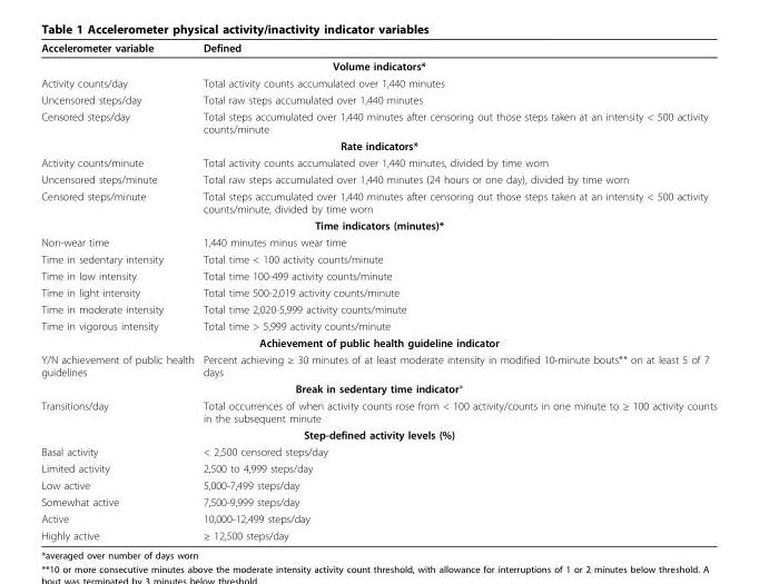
<table><thead><tr><td>Accelerometer variable</td><td>Defined</td></tr></thead><tbody><tr><td colspan="2">Volume indicators*</td></tr><tr><td>Activity counts/day</td><td>Total activity counts accumulated over 1,440 minutes</td></tr><tr><td>Uncensored steps/day</td><td>Total raw steps accumulated over 1,440 minutes</td></tr><tr><td>Censored steps/day</td><td>Total steps accumulated over 1,440 minutes after censoring out those steps taken at an intensity &lt; 500 activity counts/minute</td></tr><tr><td colspan="2">Rate indicators*</td></tr><tr><td>Activity counts/minute</td><td>Total activity counts accumulated over 1,440 minutes, divided by time worn</td></tr><tr><td>Uncensored steps/minute</td><td>Total raw steps accumulated over 1,440 minutes (24 hours or one day), divided by time worn</td></tr><tr><td>Censored steps/minute</td><td>Total steps accumulated over 1,440 minutes after censoring out those steps taken at an intensity &lt; 500 activity counts/minute, divided by time worn</td></tr><tr><td colspan="2">Time indicators (minutes)*</td></tr><tr><td>Non-wear time</td><td>1,440 minutes minus wear time</td></tr><tr><td>Time in sedentary intensity</td><td>Total time &lt; 100 activity counts/minute</td></tr><tr><td>Time in low intensity</td><td>Total time 100-499 activity counts/minute</td></tr><tr><td>Time in light intensity</td><td>Total time 500-2,019 activity counts/minute</td></tr><tr><td>Time in moderate intensity</td><td>Total time 2,020-5,999 activity counts/minute</td></tr><tr><td>Time in vigorous intensity</td><td>Total time &gt; 5,999 activity counts/minute</td></tr><tr><td colspan="2">Achievement of public health guideline indicator</td></tr><tr><td>Y/N achievement of public health guidelines</td><td>Percent achieving ≥ 30 minutes of at least moderate intensity in modified 10-minute bouts** on at least 5 of 7 days</td></tr><tr><td colspan="2">Break in sedentary time indicator*</td></tr><tr><td>Transitions/day</td><td>Total occurrences of when activity counts rose from &lt; 100 activity/counts in one minute to ≥ 100 activity counts in the subsequent minute</td></tr><tr><td colspan="2">Step-defined activity levels (%)</td></tr><tr><td>Basal activity</td><td>&lt; 2,500 censored steps/day</td></tr><tr><td>Limited activity</td><td>2,500 to 4,999 steps/day</td></tr><tr><td>Low active</td><td>5,000-7,499 steps/day</td></tr><tr><td>Somewhat active</td><td>7,500-9,999 steps/day</td></tr><tr><td>Active</td><td>10,000-12,499 steps/day</td></tr><tr><td>Highly active</td><td>≥ 12,500 steps/day</td></tr></tbody></table>